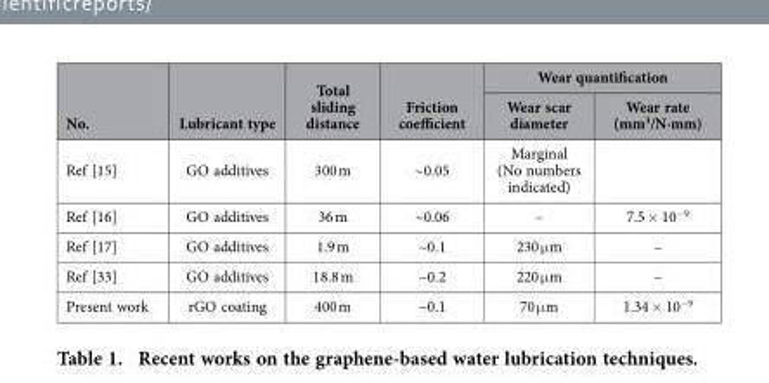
<table><thead><tr><td rowspan="2">No.</td><td rowspan="2">Lubricant type</td><td rowspan="2">Total sliding distance</td><td rowspan="2">Friction coefficient</td><td colspan="2">Wear quantification</td></tr><tr><td>Wear scar diameter</td><td>Wear rate (mm<sup>3</sup>/N·mm)</td></tr></thead><tbody><tr><td>Ref [15]</td><td>GO additives</td><td>300 m</td><td>~0.05</td><td>Marginal (No numbers indicated)</td><td></td></tr><tr><td>Ref [16]</td><td>GO additives</td><td>36 m</td><td>~0.06</td><td>–</td><td>7.5 × 10<sup>−9</sup></td></tr><tr><td>Ref [17]</td><td>GO additives</td><td>1.9 m</td><td>~0.1</td><td>230 μ m</td><td>–</td></tr><tr><td>Ref [33]</td><td>GO additives</td><td>18.8 m</td><td>~0.2</td><td>220 μ m</td><td>–</td></tr><tr><td>Present work</td><td>rGO coating</td><td>400 m</td><td>~0.1</td><td>70 μ m</td><td>1.34 × 10<sup>−9</sup></td></tr></tbody></table>